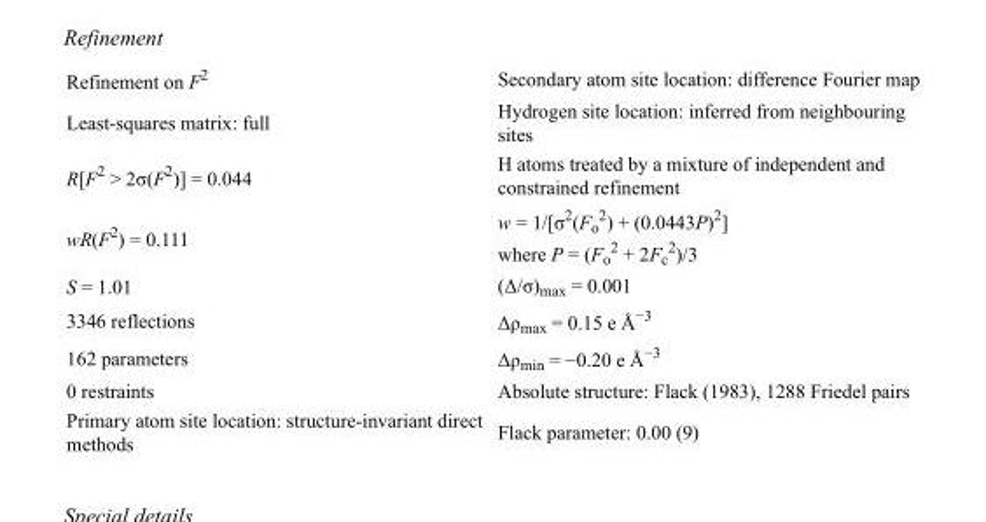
<table><tbody><tr><td>Refinement on F<sup>2</sup></td><td>Secondary atom site location: difference Fourier map</td></tr><tr><td>Least-squares matrix: full</td><td>Hydrogen site location: inferred from neighbouring sites</td></tr><tr><td>R[F<sup>2</sup> &gt; 2σ(F<sup>2</sup>)] = 0.044</td><td>H atoms treated by a mixture of independent and constrained refinement</td></tr><tr><td>wR(F<sup>2</sup>) = 0.111</td><td>w = 1/[σ<sup>2</sup>(F<sub>o</sub> <sup>2</sup>) + (0.0443P)<sup>2</sup>] where P = (F<sub>o</sub> <sup>2</sup> + 2F<sub>c</sub> <sup>2</sup>)/3</td></tr><tr><td>S = 1.01</td><td>(Δ/σ)<sub>max</sub> = 0.001</td></tr><tr><td>3346 reflections</td><td>Δρ<sub>max</sub> = 0.15 e Å<sup>−3</sup></td></tr><tr><td>162 parameters</td><td>Δρ<sub>min</sub> = −0.20 e Å<sup>−3</sup></td></tr><tr><td>0 restraints</td><td>Absolute structure: Flack (1983), 1288 Friedel pairs</td></tr><tr><td>Primary atom site location: structure-invariant direct methods</td><td>Flack parameter: 0.00 (9)</td></tr></tbody></table>